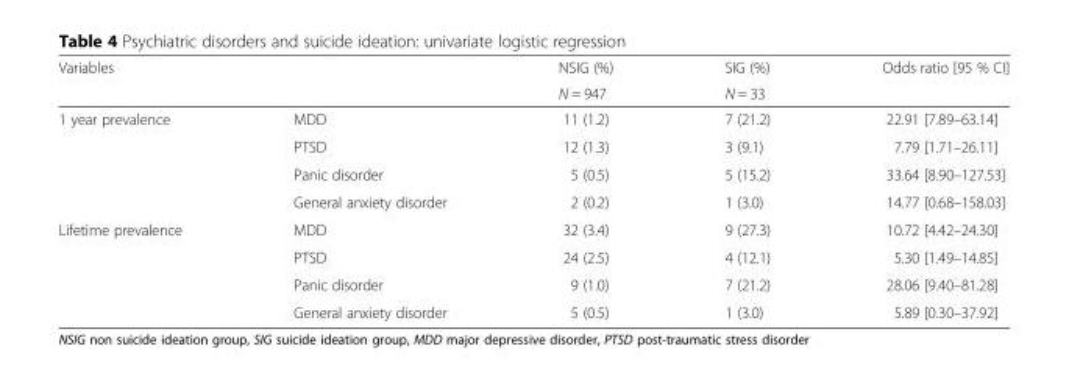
<table><thead><tr><td rowspan="2">Variables</td><td rowspan="2"></td><td rowspan="2">NSIG (%) N = 947</td><td rowspan="2">SIG (%) N = 33</td><td rowspan="2">Odds ratio [95 % CI]</td></tr><tr></tr></thead><tbody><tr><td rowspan="4">1 year prevalence</td><td>MDD</td><td>11 (1.2)</td><td>7 (21.2)</td><td>22.91 [7.89–63.14]</td></tr><tr><td>PTSD</td><td>12 (1.3)</td><td>3 (9.1)</td><td>7.79 [1.71–26.11]</td></tr><tr><td>Panic disorder</td><td>5 (0.5)</td><td>5 (15.2)</td><td>33.64 [8.90–127.53]</td></tr><tr><td>General anxiety disorder</td><td>2 (0.2)</td><td>1 (3.0)</td><td>14.77 [0.68–158.03]</td></tr><tr><td rowspan="4">Lifetime prevalence</td><td>MDD</td><td>32 (3.4)</td><td>9 (27.3)</td><td>10.72 [4.42–24.30]</td></tr><tr><td>PTSD</td><td>24 (2.5)</td><td>4 (12.1)</td><td>5.30 [1.49–14.85]</td></tr><tr><td>Panic disorder</td><td>9 (1.0)</td><td>7 (21.2)</td><td>28.06 [9.40–81.28]</td></tr><tr><td>General anxiety disorder</td><td>5 (0.5)</td><td>1 (3.0)</td><td>5.89 [0.30–37.92]</td></tr></tbody></table>